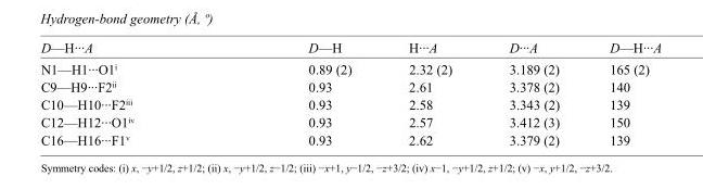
<table><tbody><tr><td>D—H···A</td><td>D—H</td><td>H···A</td><td>D···A</td><td>D—H···A</td></tr><tr><td>N1—H1···O1<sup>i</sup></td><td>0.89 (2)</td><td>2.32 (2)</td><td>3.189 (2)</td><td>165 (2)</td></tr><tr><td>C9—H9···F2<sup>ii</sup></td><td>0.93</td><td>2.61</td><td>3.378 (2)</td><td>140</td></tr><tr><td>C10—H10···F2<sup>iii</sup></td><td>0.93</td><td>2.58</td><td>3.343 (2)</td><td>139</td></tr><tr><td>C12—H12···O1<sup>iv</sup></td><td>0.93</td><td>2.57</td><td>3.412 (3)</td><td>150</td></tr><tr><td>C16—H16···F1<sup>v</sup></td><td>0.93</td><td>2.62</td><td>3.379 (2)</td><td>139</td></tr></tbody></table>